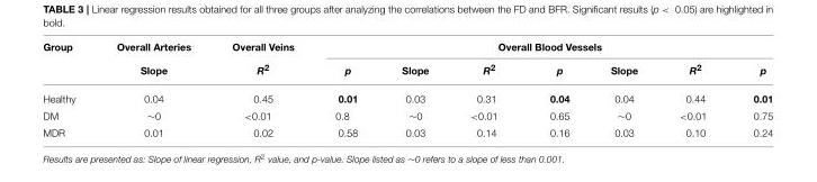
<table><thead><tr><td rowspan="2">Group</td><td rowspan="2">Overall Arteries Slope</td><td rowspan="2">Overall Veins R<sup>2</sup></td><td colspan="7">Overall Blood Vessels</td></tr><tr><td>p</td><td>Slope</td><td>R<sup>2</sup></td><td>p</td><td>Slope</td><td>R<sup>2</sup></td><td>p</td></tr></thead><tbody><tr><td>Healthy</td><td>0.04</td><td>0.45</td><td>0.01</td><td>0.03</td><td>0.31</td><td>0.04</td><td>0.04</td><td>0.44</td><td>0.01</td></tr><tr><td>DM</td><td>∼0</td><td>&lt;0.01</td><td>0.8</td><td>∼0</td><td>&lt;0.01</td><td>0.65</td><td>∼0</td><td>&lt;0.01</td><td>0.75</td></tr><tr><td>MDR</td><td>0.01</td><td>0.02</td><td>0.58</td><td>0.03</td><td>0.14</td><td>0.16</td><td>0.03</td><td>0.10</td><td>0.24</td></tr></tbody></table>